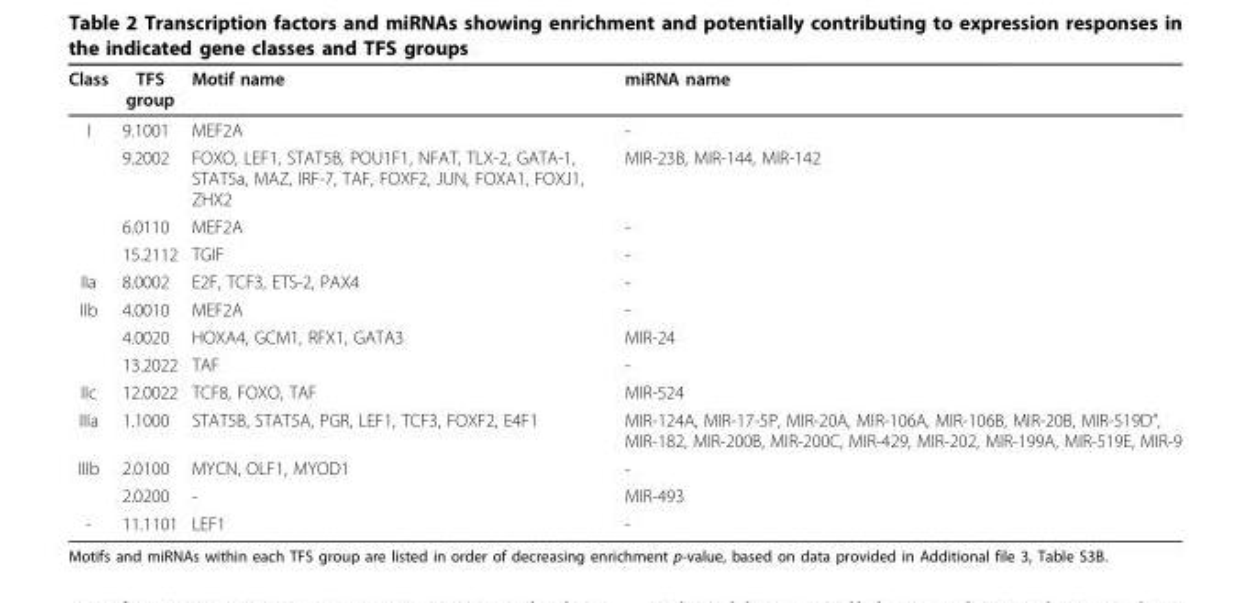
<table><thead><tr><td>Class</td><td>TFS group</td><td>Motif name</td><td>miRNA name</td></tr></thead><tbody><tr><td rowspan="4">I</td><td>9.1001</td><td>MEF2A</td><td>-</td></tr><tr><td>9.2002</td><td>FOXO, LEF1, STAT5B, POU1F1, NFAT, TLX-2, GATA-1, STAT5a, MAZ, IRF-7, TAF, FOXF2, JUN, FOXA1, FOXJ1, ZHX2</td><td>MIR-23B, MIR-144, MIR-142</td></tr><tr><td>6.0110</td><td>MEF2A</td><td>-</td></tr><tr><td>15.2112</td><td>TGIF</td><td>-</td></tr><tr><td>IIa</td><td>8.0002</td><td>E2F, TCF3, ETS-2, PAX4</td><td>-</td></tr><tr><td rowspan="3">IIb</td><td>4.0010</td><td>MEF2A</td><td>-</td></tr><tr><td>4.0020</td><td>HOXA4, GCM1, RFX1, GATA3</td><td>MIR-24</td></tr><tr><td>13.2022</td><td>TAF</td><td>-</td></tr><tr><td>IIc</td><td>12.0022</td><td>TCF8, FOXO, TAF</td><td>MIR-524</td></tr><tr><td>IIIa</td><td>1.1000</td><td>STAT5B, STAT5A, PGR, LEF1, TCF3, FOXF2, E4F1</td><td>MIR-124A, MIR-17-5P, MIR-20A, MIR-106A, MIR-106B, MIR-20B, MIR-519D”, MIR-182, MIR-200B, MIR-200C, MIR-429, MIR-202, MIR-199A, MIR-519E, MIR-9</td></tr><tr><td rowspan="2">IIIb</td><td>2.0100</td><td>MYCN, OLF1, MYOD1</td><td>-</td></tr><tr><td>2.0200</td><td>-</td><td>MIR-493</td></tr><tr><td>-</td><td>11.1101</td><td>LEF1</td><td>-</td></tr></tbody></table>